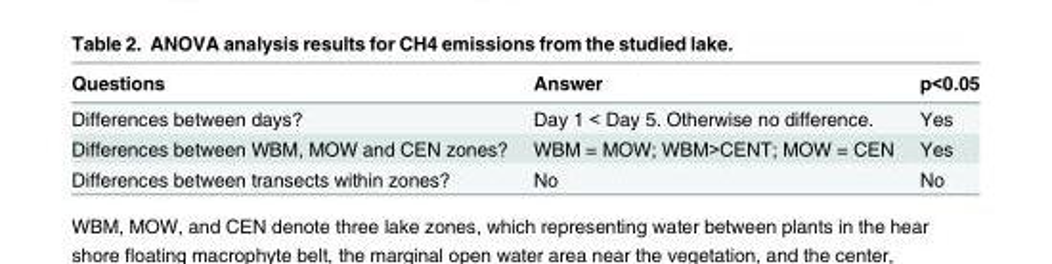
<table><thead><tr><td>Questions</td><td>Answer</td><td>p&lt;0.05</td></tr></thead><tbody><tr><td>Differences between days?</td><td>Day 1 &lt; Day 5. Otherwise no difference.</td><td>Yes</td></tr><tr><td>Differences between WBM, MOW and CEN zones?</td><td>WBM = MOW; WBM&gt;CENT; MOW = CEN</td><td>Yes</td></tr><tr><td>Differences between transects within zones?</td><td>No</td><td>No</td></tr></tbody></table>